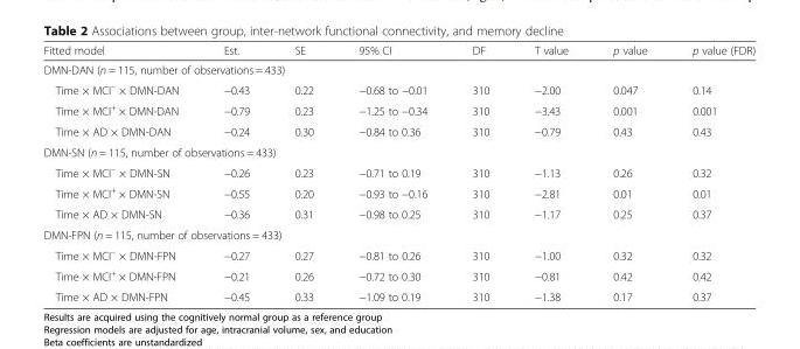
<table><thead><tr><td>Fitted model</td><td>Est.</td><td>SE</td><td>95% CI</td><td>DF</td><td>T value</td><td>p value</td><td>p value (FDR)</td></tr></thead><tbody><tr><td colspan="8">DMN-DAN (n = 115, number of observations = 433)</td></tr><tr><td>Time × MCI<sup>–</sup> × DMN-DAN</td><td>−0.43</td><td>0.22</td><td>−0.68 to −0.01</td><td>310</td><td>−2.00</td><td>0.047</td><td>0.14</td></tr><tr><td>Time × MCI<sup>+</sup> × DMN-DAN</td><td>−0.79</td><td>0.23</td><td>−1.25 to −0.34</td><td>310</td><td>−3.43</td><td>0.001</td><td>0.001</td></tr><tr><td>Time × AD × DMN-DAN</td><td>−0.24</td><td>0.30</td><td>−0.84 to 0.36</td><td>310</td><td>−0.79</td><td>0.43</td><td>0.43</td></tr><tr><td colspan="8">DMN-SN (n = 115, number of observations = 433)</td></tr><tr><td>Time × MCI<sup>–</sup> × DMN-SN</td><td>−0.26</td><td>0.23</td><td>−0.71 to 0.19</td><td>310</td><td>−1.13</td><td>0.26</td><td>0.32</td></tr><tr><td>Time × MCI<sup>+</sup> × DMN-SN</td><td>−0.55</td><td>0.20</td><td>−0.93 to −0.16</td><td>310</td><td>−2.81</td><td>0.01</td><td>0.01</td></tr><tr><td>Time × AD × DMN-SN</td><td>−0.36</td><td>0.31</td><td>−0.98 to 0.25</td><td>310</td><td>−1.17</td><td>0.25</td><td>0.37</td></tr><tr><td colspan="8">DMN-FPN (n = 115, number of observations = 433)</td></tr><tr><td>Time × MCI<sup>–</sup> × DMN-FPN</td><td>−0.27</td><td>0.27</td><td>−0.81 to 0.26</td><td>310</td><td>−1.00</td><td>0.32</td><td>0.32</td></tr><tr><td>Time × MCI<sup>+</sup> × DMN-FPN</td><td>−0.21</td><td>0.26</td><td>−0.72 to 0.30</td><td>310</td><td>−0.81</td><td>0.42</td><td>0.42</td></tr><tr><td>Time × AD × DMN-FPN</td><td>−0.45</td><td>0.33</td><td>−1.09 to 0.19</td><td>310</td><td>−1.38</td><td>0.17</td><td>0.37</td></tr></tbody></table>